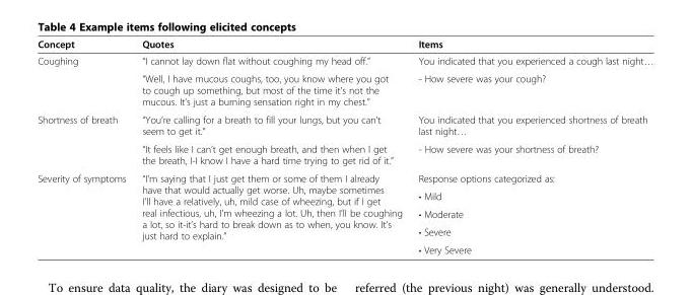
<table><thead><tr><td>Concept</td><td>Quotes</td><td>Items</td></tr></thead><tbody><tr><td rowspan="2">Coughing</td><td>“I cannot lay down flat without coughing my head off.”</td><td>You indicated that you experienced a cough last night…</td></tr><tr><td>“Well, I have mucous coughs, too, you know where you got to cough up something, but most of the time it’s not the mucous. It’s just a burning sensation right in my chest.”</td><td>- How severe was your cough?</td></tr><tr><td rowspan="2">Shortness of breath</td><td>“You’re calling for a breath to fill your lungs, but you can’t seem to get it.”</td><td>You indicated that you experienced shortness of breath last night…</td></tr><tr><td>“It feels like I can’t get enough breath, and then when I get the breath, I-I know I have a hard time trying to get rid of it.”</td><td>- How severe was your shortness of breath?</td></tr><tr><td rowspan="5">Severity of symptoms</td><td rowspan="5">“I’m saying that I just get them or some of them I already have that would actually get worse. Uh, maybe sometimes I’ll have a relatively, uh, mild case of wheezing, but if I get real infectious, uh, I’m wheezing a lot. Uh, then I’ll be coughing a lot, so it-it’s hard to break down as to when, you know. It’s just hard to explain.”</td><td>Response options categorized as:</td></tr><tr><td>• Mild</td></tr><tr><td>• Moderate</td></tr><tr><td>• Severe</td></tr><tr><td>• Very Severe</td></tr></tbody></table>